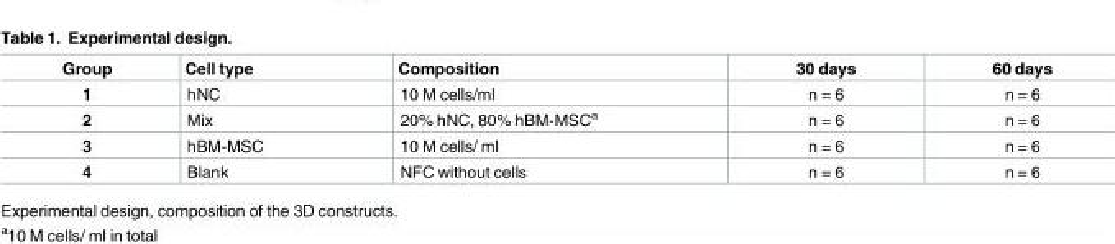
<table><thead><tr><td>Group</td><td>Cell type</td><td>Composition</td><td>30 days</td><td>60 days</td></tr></thead><tbody><tr><td>1</td><td>hNC</td><td>10 M cells/ml</td><td>n = 6</td><td>n = 6</td></tr><tr><td>2</td><td>Mix</td><td>20% hNC, 80% hBM-MSC<sup>a</sup></td><td>n = 6</td><td>n = 6</td></tr><tr><td>3</td><td>hBM-MSC</td><td>10 M cells/ ml</td><td>n = 6</td><td>n = 6</td></tr><tr><td>4</td><td>Blank</td><td>NFC without cells</td><td>n = 6</td><td>n = 6</td></tr></tbody></table>